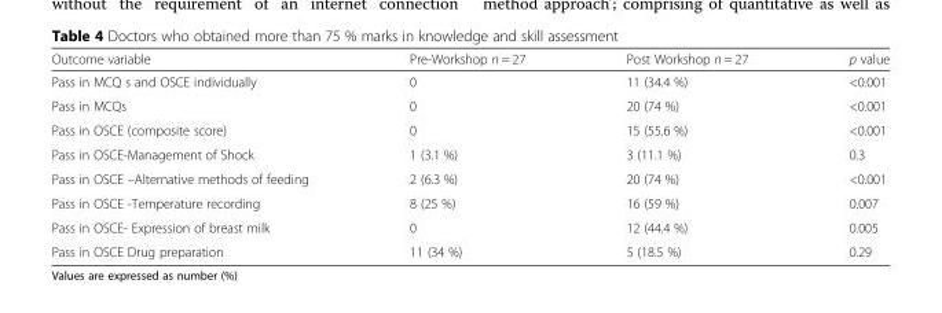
<table><thead><tr><td>Outcome variable</td><td>Pre-Workshop n = 27</td><td>Post Workshop n = 27</td><td>p value</td></tr></thead><tbody><tr><td>Pass in MCQ s and OSCE individually</td><td>0</td><td>11 (34.4 %)</td><td>&lt;0.001</td></tr><tr><td>Pass in MCQs</td><td>0</td><td>20 (74 %)</td><td>&lt;0.001</td></tr><tr><td>Pass in OSCE (composite score)</td><td>0</td><td>15 (55.6 %)</td><td>&lt;0.001</td></tr><tr><td>Pass in OSCE-Management of Shock</td><td>1 (3.1 %)</td><td>3 (11.1 %)</td><td>0.3</td></tr><tr><td>Pass in OSCE –Alternative methods of feeding</td><td>2 (6.3 %)</td><td>20 (74 %)</td><td>&lt;0.001</td></tr><tr><td>Pass in OSCE -Temperature recording</td><td>8 (25 %)</td><td>16 (59 %)</td><td>0.007</td></tr><tr><td>Pass in OSCE- Expression of breast milk</td><td>0</td><td>12 (44.4 %)</td><td>0.005</td></tr><tr><td>Pass in OSCE Drug preparation</td><td>11 (34 %)</td><td>5 (18.5 %)</td><td>0.29</td></tr></tbody></table>